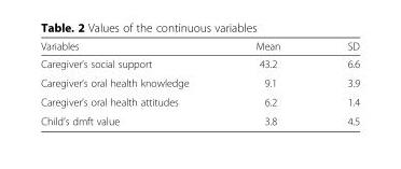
<table><thead><tr><td>Variables</td><td>Mean</td><td>SD</td></tr></thead><tbody><tr><td>Caregiver’s social support</td><td>43.2</td><td>6.6</td></tr><tr><td>Caregiver’s oral health knowledge</td><td>9.1</td><td>3.9</td></tr><tr><td>Caregiver’s oral health attitudes</td><td>6.2</td><td>1.4</td></tr><tr><td>Child’s dmft value</td><td>3.8</td><td>4.5</td></tr></tbody></table>